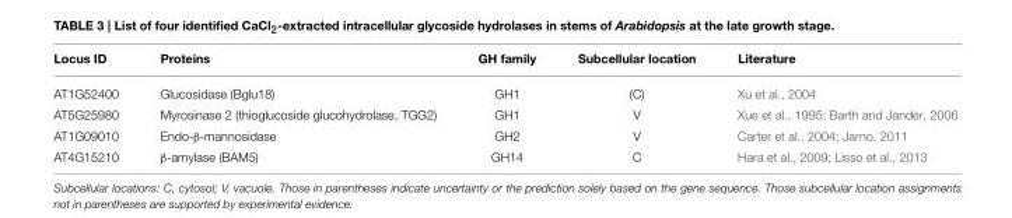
<table><thead><tr><td>Locus ID</td><td>Proteins</td><td>GH family</td><td>Subcellular location</td><td>Literature</td></tr></thead><tbody><tr><td>AT1G52400</td><td>Glucosidase (Bglu18)</td><td>GH1</td><td>(C)</td><td>Xu et al., 2004</td></tr><tr><td>AT5G25980</td><td>Myrosinase 2 (thioglucoside glucohydrolase, TGG2)</td><td>GH1</td><td>V</td><td>Xue et al., 1995; Barth and Jander, 2006</td></tr><tr><td>AT1G09010</td><td>Endo-β-mannosidase</td><td>GH2</td><td>V</td><td>Carter et al., 2004; Jarno, 2011</td></tr><tr><td>AT4G15210</td><td>β-amylase (BAM5)</td><td>GH14</td><td>C</td><td>Hara et al., 2009; Lisso et al., 2013</td></tr></tbody></table>